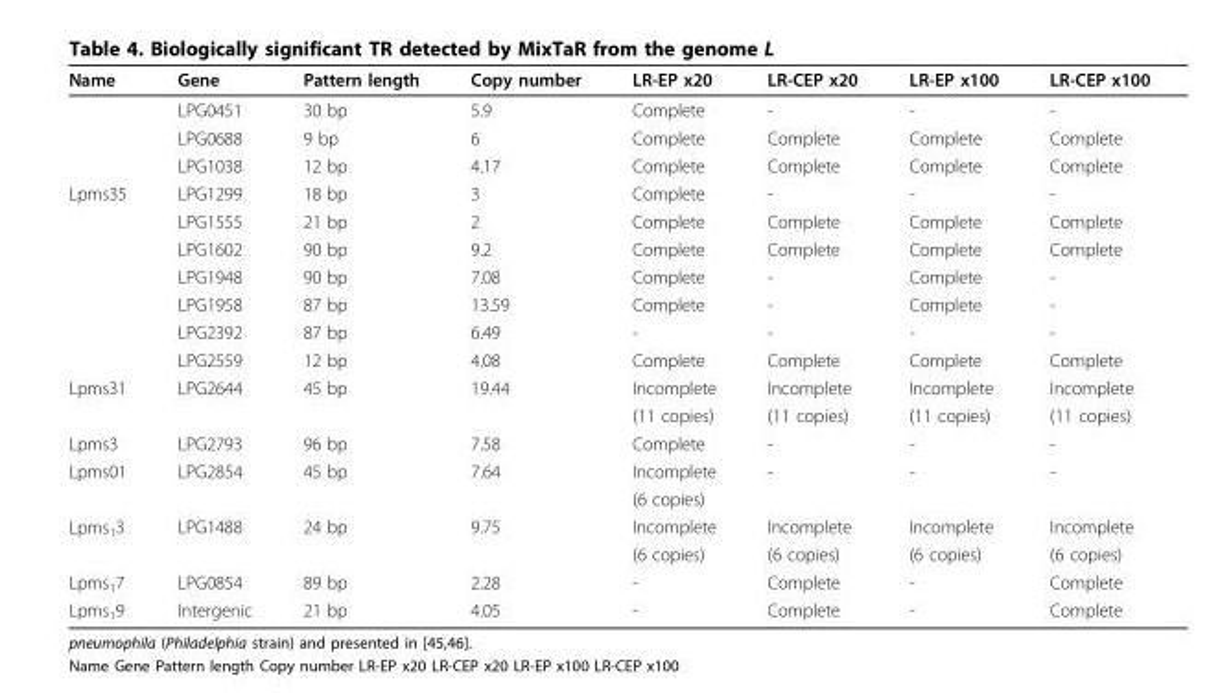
<table><thead><tr><td>Name</td><td>Gene</td><td>Pattern length</td><td>Copy number</td><td>LR-EP x20</td><td>LR-CEP x20</td><td>LR-EP x100</td><td>LR-CEP x100</td></tr></thead><tbody><tr><td></td><td>LPG0451</td><td>30 bp</td><td>5.9</td><td>Complete</td><td>-</td><td>-</td><td>-</td></tr><tr><td></td><td>LPG0688</td><td>9 bp</td><td>6</td><td>Complete</td><td>Complete</td><td>Complete</td><td>Complete</td></tr><tr><td></td><td>LPG1038</td><td>12 bp</td><td>4.17</td><td>Complete</td><td>Complete</td><td>Complete</td><td>Complete</td></tr><tr><td rowspan="7">Lpms35</td><td>LPG1299</td><td>18 bp</td><td>3</td><td>Complete</td><td>-</td><td>-</td><td>-</td></tr><tr><td>LPG1555</td><td>21 bp</td><td>2</td><td>Complete</td><td>Complete</td><td>Complete</td><td>Complete</td></tr><tr><td>LPG1602</td><td>90 bp</td><td>9.2</td><td>Complete</td><td>Complete</td><td>Complete</td><td>Complete</td></tr><tr><td>LPG1948</td><td>90 bp</td><td>7.08</td><td>Complete</td><td>-</td><td>Complete</td><td>-</td></tr><tr><td>LPG1958</td><td>87 bp</td><td>13.59</td><td>Complete</td><td>-</td><td>Complete</td><td>-</td></tr><tr><td>LPG2392</td><td>87 bp</td><td>6.49</td><td>-</td><td>-</td><td>-</td><td>-</td></tr><tr><td>LPG2559</td><td>12 bp</td><td>4.08</td><td>Complete</td><td>Complete</td><td>Complete</td><td>Complete</td></tr><tr><td rowspan="2">Lpms31</td><td>LPG2644</td><td>45 bp</td><td>19.44</td><td>Incomplete</td><td>Incomplete</td><td>Incomplete</td><td>Incomplete</td></tr><tr><td></td><td></td><td></td><td>(11 copies)</td><td>(11 copies)</td><td>(11 copies)</td><td>(11 copies)</td></tr><tr><td>Lpms3</td><td>LPG2793</td><td>96 bp</td><td>7.58</td><td>Complete</td><td>-</td><td>-</td><td>-</td></tr><tr><td rowspan="2">Lpms01</td><td>LPG2854</td><td>45 bp</td><td>7.64</td><td>Incomplete</td><td>-</td><td>-</td><td>-</td></tr><tr><td></td><td></td><td></td><td>(6 copies)</td><td></td><td></td><td></td></tr><tr><td rowspan="2">Lpms<sub>1</sub>3</td><td>LPG1488</td><td>24 bp</td><td>9.75</td><td>Incomplete</td><td>Incomplete</td><td>Incomplete</td><td>Incomplete</td></tr><tr><td></td><td></td><td></td><td>(6 copies)</td><td>(6 copies)</td><td>(6 copies)</td><td>(6 copies)</td></tr><tr><td>Lpms<sub>1</sub>7</td><td>LPG0854</td><td>89 bp</td><td>2.28</td><td>-</td><td>Complete</td><td>-</td><td>Complete</td></tr><tr><td>Lpms<sub>1</sub>9</td><td>Intergenic</td><td>21 bp</td><td>4.05</td><td>-</td><td>Complete</td><td>-</td><td>Complete</td></tr></tbody></table>